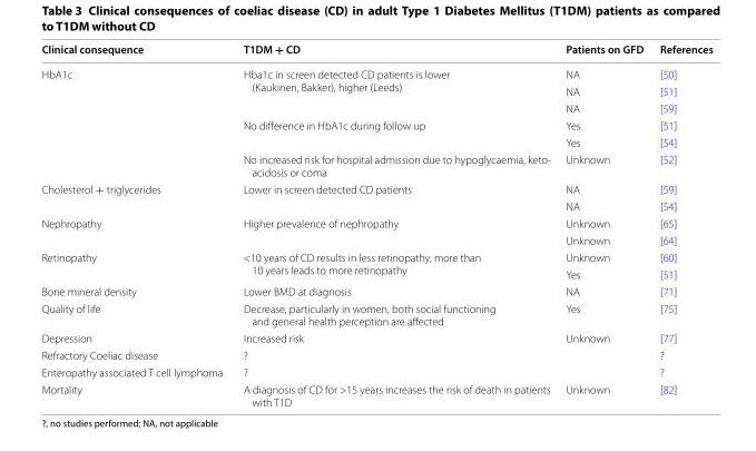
<table><thead><tr><td>Clinical consequence</td><td>T1DM + CD</td><td>Patients on GFD</td><td>References</td></tr></thead><tbody><tr><td rowspan="6">HbA1c</td><td rowspan="3">Hba1c in screen detected CD patients is lower (Kaukinen, Bakker), higher (Leeds)</td><td>NA</td><td>[50]</td></tr><tr><td>NA</td><td>[51]</td></tr><tr><td>NA</td><td>[59]</td></tr><tr><td rowspan="2">No difference in HbA1c during follow up</td><td>Yes</td><td>[51]</td></tr><tr><td>Yes</td><td>[54]</td></tr><tr><td>No increased risk for hospital admission due to hypoglycaemia, keto- acidosis or coma</td><td>Unknown</td><td>[52]</td></tr><tr><td rowspan="2">Cholesterol + triglycerides</td><td rowspan="2">Lower in screen detected CD patients</td><td>NA</td><td>[59]</td></tr><tr><td>NA</td><td>[54]</td></tr><tr><td rowspan="2">Nephropathy</td><td rowspan="2">Higher prevalence of nephropathy</td><td>Unknown</td><td>[65]</td></tr><tr><td>Unknown</td><td>[64]</td></tr><tr><td rowspan="2">Retinopathy</td><td rowspan="2">&lt;10 years of CD results in less retinopathy, more than 10 years leads to more retinopathy</td><td>Unknown</td><td>[60]</td></tr><tr><td>Yes</td><td>[51]</td></tr><tr><td>Bone mineral density</td><td>Lower BMD at diagnosis</td><td>NA</td><td>[71]</td></tr><tr><td>Quality of life</td><td>Decrease, particularly in women, both social functioning and general health perception are affected</td><td>Yes</td><td>[75]</td></tr><tr><td>Depression</td><td>Increased risk</td><td>Unknown</td><td>[77]</td></tr><tr><td>Refractory Coeliac disease</td><td>?</td><td></td><td>?</td></tr><tr><td>Enteropathy associated T cell lymphoma</td><td>?</td><td></td><td>?</td></tr><tr><td>Mortality</td><td>A diagnosis of CD for &gt;15 years increases the risk of death in patients with T1D</td><td>Unknown</td><td>[82]</td></tr></tbody></table>